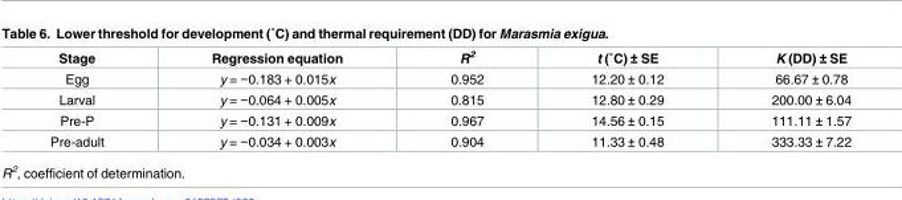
<table><thead><tr><td>Stage</td><td>Regression equation</td><td>R<sup>2</sup></td><td>t (˚C) ± SE</td><td>K (DD) ± SE</td></tr></thead><tbody><tr><td>Egg</td><td>y = −0.183 + 0.015x</td><td>0.952</td><td>12.20 ± 0.12</td><td>66.67 ± 0.78</td></tr><tr><td>Larval</td><td>y = −0.064 + 0.005x</td><td>0.815</td><td>12.80 ± 0.29</td><td>200.00 ± 6.04</td></tr><tr><td>Pre-P</td><td>y = −0.131 + 0.009x</td><td>0.967</td><td>14.56 ± 0.15</td><td>111.11 ± 1.57</td></tr><tr><td>Pre-adult</td><td>y = −0.034 + 0.003x</td><td>0.904</td><td>11.33 ± 0.48</td><td>333.33 ± 7.22</td></tr></tbody></table>